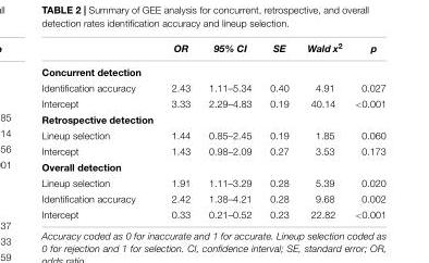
<table><thead><tr><td></td><td>OR</td><td>95% CI</td><td>SE</td><td>Wald x<sup>2</sup></td><td>p</td></tr></thead><tbody><tr><td colspan="6">Concurrent detection</td></tr><tr><td>Identification accuracy</td><td>2.43</td><td>1.11–5.34</td><td>0.40</td><td>4.91</td><td>0.027</td></tr><tr><td>Intercept</td><td>3.33</td><td>2.29–4.83</td><td>0.19</td><td>40.14</td><td>&lt;0.001</td></tr><tr><td colspan="6">Retrospective detection</td></tr><tr><td>Lineup selection</td><td>1.44</td><td>0.85–2.45</td><td>0.19</td><td>1.85</td><td>0.060</td></tr><tr><td>Intercept</td><td>1.43</td><td>0.98–2.09</td><td>0.27</td><td>3.53</td><td>0.173</td></tr><tr><td colspan="6">Overall detection</td></tr><tr><td>Lineup selection</td><td>1.91</td><td>1.11–3.29</td><td>0.28</td><td>5.39</td><td>0.020</td></tr><tr><td>Identification accuracy</td><td>2.42</td><td>1.38–4.21</td><td>0.28</td><td>9.68</td><td>0.002</td></tr><tr><td>Intercept</td><td>0.33</td><td>0.21–0.52</td><td>0.23</td><td>22.82</td><td>&lt;0.001</td></tr></tbody></table>